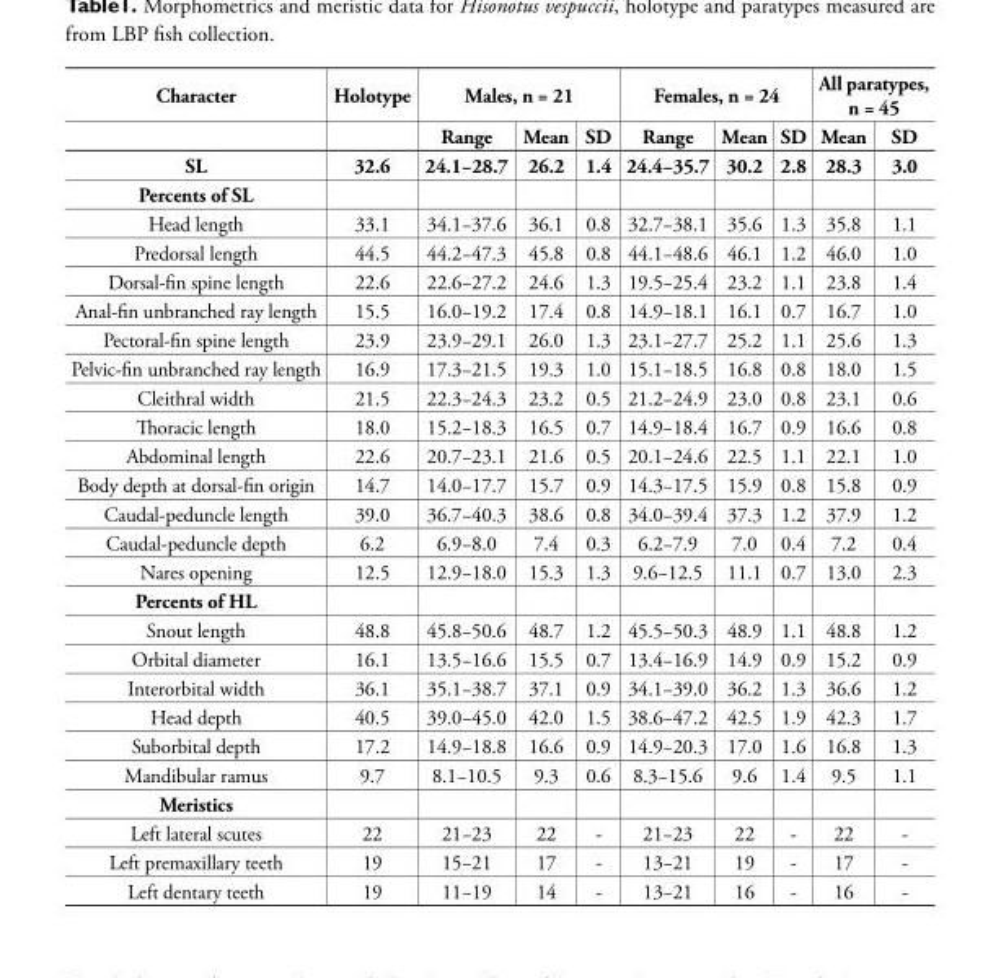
<table><thead><tr><td rowspan="2">Character</td><td rowspan="2">Holotype</td><td colspan="3">Males, n = 21</td><td colspan="3">Females, n = 24</td><td colspan="2">All paratypes, n = 45</td></tr><tr><td>Range</td><td>Mean</td><td>SD</td><td>Range</td><td>Mean</td><td>SD</td><td>Mean</td><td>SD</td></tr></thead><tbody><tr><td>SL</td><td>32.6</td><td>24.1−28.7</td><td>26.2</td><td>1.4</td><td>24.4−35.7</td><td>30.2</td><td>2.8</td><td>28.3</td><td>3.0</td></tr><tr><td colspan="10">Percents of SL</td></tr><tr><td>Head length</td><td>33.1</td><td>34.1−37.6</td><td>36.1</td><td>0.8</td><td>32.7−38.1</td><td>35.6</td><td>1.3</td><td>35.8</td><td>1.1</td></tr><tr><td>Predorsal length</td><td>44.5</td><td>44.2−47.3</td><td>45.8</td><td>0.8</td><td>44.1−48.6</td><td>46.1</td><td>1.2</td><td>46.0</td><td>1.0</td></tr><tr><td>Dorsal-fin spine length</td><td>22.6</td><td>22.6−27.2</td><td>24.6</td><td>1.3</td><td>19.5−25.4</td><td>23.2</td><td>1.1</td><td>23.8</td><td>1.4</td></tr><tr><td>Anal-fin unbranched ray length</td><td>15.5</td><td>16.0−19.2</td><td>17.4</td><td>0.8</td><td>14.9−18.1</td><td>16.1</td><td>0.7</td><td>16.7</td><td>1.0</td></tr><tr><td>Pectoral-fin spine length</td><td>23.9</td><td>23.9−29.1</td><td>26.0</td><td>1.3</td><td>23.1−27.7</td><td>25.2</td><td>1.1</td><td>25.6</td><td>1.3</td></tr><tr><td>Pelvic-fin unbranched ray length</td><td>16.9</td><td>17.3−21.5</td><td>19.3</td><td>1.0</td><td>15.1−18.5</td><td>16.8</td><td>0.8</td><td>18.0</td><td>1.5</td></tr><tr><td>Cleithral width</td><td>21.5</td><td>22.3−24.3</td><td>23.2</td><td>0.5</td><td>21.2−24.9</td><td>23.0</td><td>0.8</td><td>23.1</td><td>0.6</td></tr><tr><td>Thoracic length</td><td>18.0</td><td>15.2−18.3</td><td>16.5</td><td>0.7</td><td>14.9−18.4</td><td>16.7</td><td>0.9</td><td>16.6</td><td>0.8</td></tr><tr><td>Abdominal length</td><td>22.6</td><td>20.7−23.1</td><td>21.6</td><td>0.5</td><td>20.1−24.6</td><td>22.5</td><td>1.1</td><td>22.1</td><td>1.0</td></tr><tr><td>Body depth at dorsal-fin origin</td><td>14.7</td><td>14.0−17.7</td><td>15.7</td><td>0.9</td><td>14.3−17.5</td><td>15.9</td><td>0.8</td><td>15.8</td><td>0.9</td></tr><tr><td>Caudal-peduncle length</td><td>39.0</td><td>36.7−40.3</td><td>38.6</td><td>0.8</td><td>34.0−39.4</td><td>37.3</td><td>1.2</td><td>37.9</td><td>1.2</td></tr><tr><td>Caudal-peduncle depth</td><td>6.2</td><td>6.9−8.0</td><td>7.4</td><td>0.3</td><td>6.2−7.9</td><td>7.0</td><td>0.4</td><td>7.2</td><td>0.4</td></tr><tr><td>Nares opening</td><td>12.5</td><td>12.9−18.0</td><td>15.3</td><td>1.3</td><td>9.6−12.5</td><td>11.1</td><td>0.7</td><td>13.0</td><td>2.3</td></tr><tr><td colspan="10">Percents of HL</td></tr><tr><td>Snout length</td><td>48.8</td><td>45.8−50.6</td><td>48.7</td><td>1.2</td><td>45.5−50.3</td><td>48.9</td><td>1.1</td><td>48.8</td><td>1.2</td></tr><tr><td>Orbital diameter</td><td>16.1</td><td>13.5−16.6</td><td>15.5</td><td>0.7</td><td>13.4−16.9</td><td>14.9</td><td>0.9</td><td>15.2</td><td>0.9</td></tr><tr><td>Interorbital width</td><td>36.1</td><td>35.1−38.7</td><td>37.1</td><td>0.9</td><td>34.1−39.0</td><td>36.2</td><td>1.3</td><td>36.6</td><td>1.2</td></tr><tr><td>Head depth</td><td>40.5</td><td>39.0−45.0</td><td>42.0</td><td>1.5</td><td>38.6−47.2</td><td>42.5</td><td>1.9</td><td>42.3</td><td>1.7</td></tr><tr><td>Suborbital depth</td><td>17.2</td><td>14.9−18.8</td><td>16.6</td><td>0.9</td><td>14.9−20.3</td><td>17.0</td><td>1.6</td><td>16.8</td><td>1.3</td></tr><tr><td>Mandibular ramus</td><td>9.7</td><td>8.1−10.5</td><td>9.3</td><td>0.6</td><td>8.3−15.6</td><td>9.6</td><td>1.4</td><td>9.5</td><td>1.1</td></tr><tr><td colspan="10">Meristics</td></tr><tr><td>Left lateral scutes</td><td>22</td><td>21−23</td><td>22</td><td>-</td><td>21−23</td><td>22</td><td>-</td><td>22</td><td>-</td></tr><tr><td>Left premaxillary teeth</td><td>19</td><td>15−21</td><td>17</td><td>-</td><td>13−21</td><td>19</td><td>-</td><td>17</td><td>-</td></tr><tr><td>Left dentary teeth</td><td>19</td><td>11−19</td><td>14</td><td>-</td><td>13−21</td><td>16</td><td>-</td><td>16</td><td>-</td></tr></tbody></table>